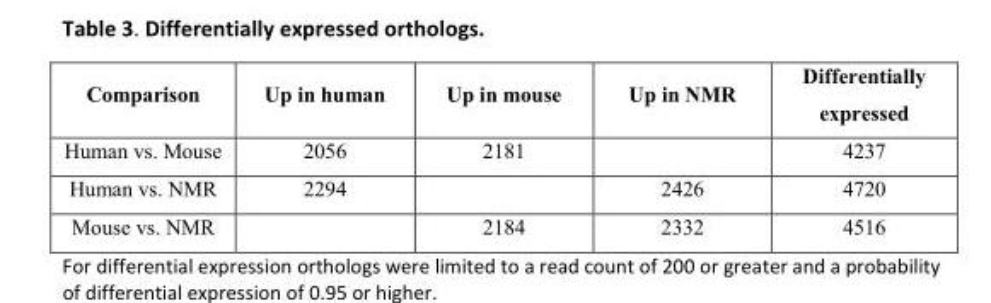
<table><thead><tr><td>Comparison</td><td>Up in human</td><td>Up in mouse</td><td>Up in NMR</td><td>Differentially expressed</td></tr></thead><tbody><tr><td>Human vs. Mouse</td><td>2056</td><td>2181</td><td></td><td>4237</td></tr><tr><td>Human vs. NMR</td><td>2294</td><td></td><td>2426</td><td>4720</td></tr><tr><td>Mouse vs. NMR</td><td></td><td>2184</td><td>2332</td><td>4516</td></tr></tbody></table>